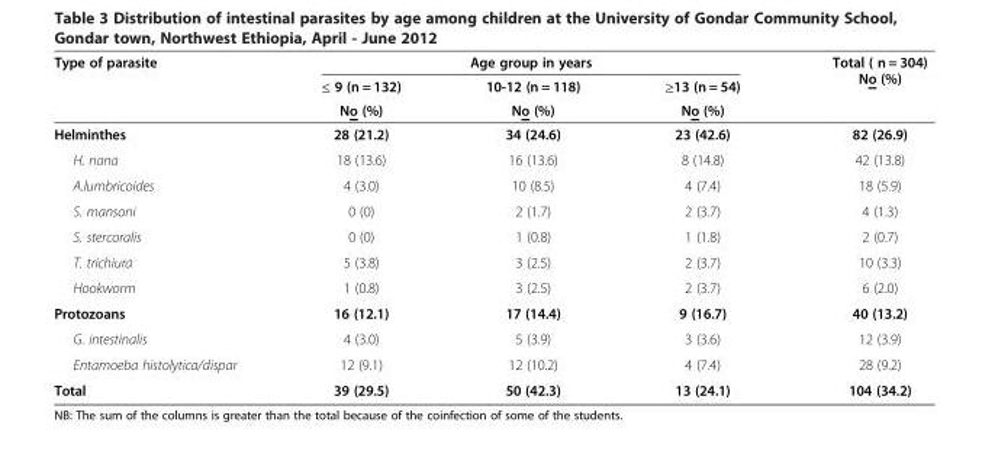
<table><thead><tr><td rowspan="3">Type of parasite</td><td colspan="3">Age group in years</td><td rowspan="3">Total ( n = 304) No (%)</td></tr><tr><td rowspan="2">≤ 9 (n = 132) No (%)</td><td rowspan="2">10-12 (n = 118) No (%)</td><td rowspan="2">≥13 (n = 54) No (%)</td></tr><tr></tr></thead><tbody><tr><td>Helminthes</td><td>28 (21.2)</td><td>34 (24.6)</td><td>23 (42.6)</td><td>82 (26.9)</td></tr><tr><td>H. nana</td><td>18 (13.6)</td><td>16 (13.6)</td><td>8 (14.8)</td><td>42 (13.8)</td></tr><tr><td>A.lumbricoides</td><td>4 (3.0)</td><td>10 (8.5)</td><td>4 (7.4)</td><td>18 (5.9)</td></tr><tr><td>S. mansoni</td><td>0 (0)</td><td>2 (1.7)</td><td>2 (3.7)</td><td>4 (1.3)</td></tr><tr><td>S. stercoralis</td><td>0 (0)</td><td>1 (0.8)</td><td>1 (1.8)</td><td>2 (0.7)</td></tr><tr><td>T. trichiura</td><td>5 (3.8)</td><td>3 (2.5)</td><td>2 (3.7)</td><td>10 (3.3)</td></tr><tr><td>Hookworm</td><td>1 (0.8)</td><td>3 (2.5)</td><td>2 (3.7)</td><td>6 (2.0)</td></tr><tr><td>Protozoans</td><td>16 (12.1)</td><td>17 (14.4)</td><td>9 (16.7)</td><td>40 (13.2)</td></tr><tr><td>G. intestinalis</td><td>4 (3.0)</td><td>5 (3.9)</td><td>3 (3.6)</td><td>12 (3.9)</td></tr><tr><td>Entamoeba histolytica/dispar</td><td>12 (9.1)</td><td>12 (10.2)</td><td>4 (7.4)</td><td>28 (9.2)</td></tr><tr><td>Total</td><td>39 (29.5)</td><td>50 (42.3)</td><td>13 (24.1)</td><td>104 (34.2)</td></tr></tbody></table>